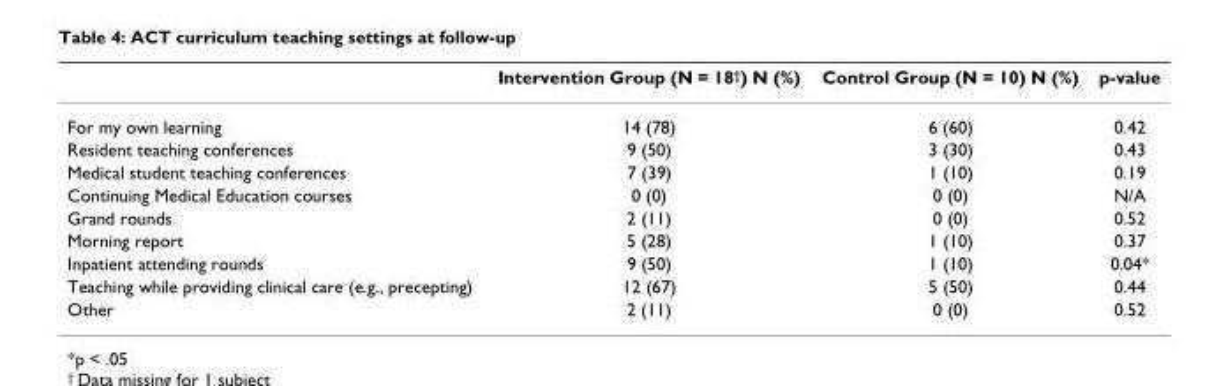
<table><thead><tr><td></td><td>Intervention Group (N = 18†) N (%)</td><td>Control Group (N = 10) N (%)</td><td>p-value</td></tr></thead><tbody><tr><td>For my own learning</td><td>14 (78)</td><td>6 (60)</td><td>0.42</td></tr><tr><td>Resident teaching conferences</td><td>9 (50)</td><td>3 (30)</td><td>0.43</td></tr><tr><td>Medical student teaching conferences</td><td>7 (39)</td><td>1 (10)</td><td>0.19</td></tr><tr><td>Continuing Medical Education courses</td><td>0 (0)</td><td>0 (0)</td><td>N/A</td></tr><tr><td>Grand rounds</td><td>2 (11)</td><td>0 (0)</td><td>0.52</td></tr><tr><td>Morning report</td><td>5 (28)</td><td>1 (10)</td><td>0.37</td></tr><tr><td>Inpatient attending rounds</td><td>9 (50)</td><td>1 (10)</td><td>0.04*</td></tr><tr><td>Teaching while providing clinical care (e.g., precepting)</td><td>12 (67)</td><td>5 (50)</td><td>0.44</td></tr><tr><td>Other</td><td>2 (11)</td><td>0 (0)</td><td>0.52</td></tr></tbody></table>